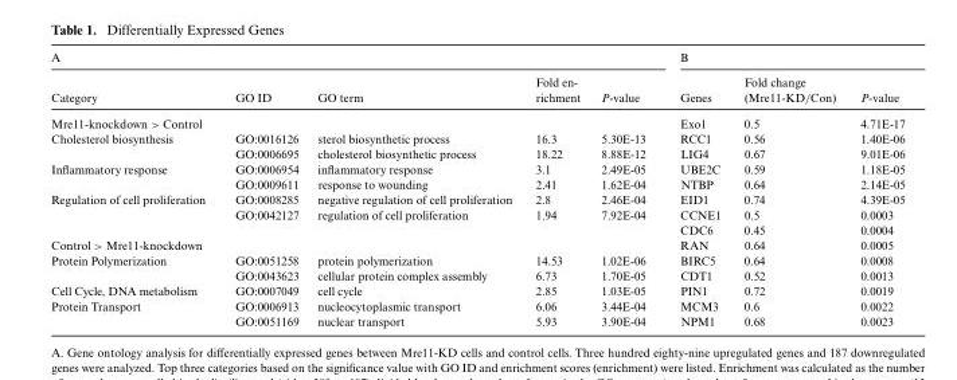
<table><thead><tr><td colspan="5">A</td><td colspan="3">B</td></tr><tr><td>Category</td><td>GO ID</td><td>GO term</td><td>Fold en- richment</td><td>P-value</td><td>Genes</td><td>Fold change (Mre11-KD/Con)</td><td>P-value</td></tr></thead><tbody><tr><td>Mre11-knockdown &gt; Control</td><td></td><td></td><td></td><td></td><td>Exo1</td><td>0.5</td><td>4.71E-17</td></tr><tr><td rowspan="2">Cholesterol biosynthesis</td><td>GO:0016126</td><td>sterol biosynthetic process</td><td>16.3</td><td>5.30E-13</td><td>RCC1</td><td>0.56</td><td>1.40E-06</td></tr><tr><td>GO:0006695</td><td>cholesterol biosynthetic process</td><td>18.22</td><td>8.88E-12</td><td>LIG4</td><td>0.67</td><td>9.01E-06</td></tr><tr><td rowspan="2">Inflammatory response</td><td>GO:0006954</td><td>inflammatory response</td><td>3.1</td><td>2.49E-05</td><td>UBE2C</td><td>0.59</td><td>1.18E-05</td></tr><tr><td>GO:0009611</td><td>response to wounding</td><td>2.41</td><td>1.62E-04</td><td>NTBP</td><td>0.64</td><td>2.14E-05</td></tr><tr><td rowspan="3">Regulation of cell proliferation</td><td>GO:0008285</td><td>negative regulation of cell proliferation</td><td>2.8</td><td>2.46E-04</td><td>EID1</td><td>0.74</td><td>4.39E-05</td></tr><tr><td>GO:0042127</td><td>regulation of cell proliferation</td><td>1.94</td><td>7.92E-04</td><td>CCNE1</td><td>0.5</td><td>0.0003</td></tr><tr><td></td><td></td><td></td><td></td><td>CDC6</td><td>0.45</td><td>0.0004</td></tr><tr><td>Control &gt; Mre11-knockdown</td><td></td><td></td><td></td><td></td><td>RAN</td><td>0.64</td><td>0.0005</td></tr><tr><td rowspan="2">Protein Polymerization</td><td>GO:0051258</td><td>protein polymerization</td><td>14.53</td><td>1.02E-06</td><td>BIRC5</td><td>0.64</td><td>0.0008</td></tr><tr><td>GO:0043623</td><td>cellular protein complex assembly</td><td>6.73</td><td>1.70E-05</td><td>CDT1</td><td>0.52</td><td>0.0013</td></tr><tr><td>Cell Cycle, DNA metabolism</td><td>GO:0007049</td><td>cell cycle</td><td>2.85</td><td>1.03E-05</td><td>PIN1</td><td>0.72</td><td>0.0019</td></tr><tr><td rowspan="2">Protein Transport</td><td>GO:0006913</td><td>nucleocytoplasmic transport</td><td>6.06</td><td>3.44E-04</td><td>MCM3</td><td>0.6</td><td>0.0022</td></tr><tr><td>GO:0051169</td><td>nuclear transport</td><td>5.93</td><td>3.90E-04</td><td>NPM1</td><td>0.68</td><td>0.0023</td></tr></tbody></table>